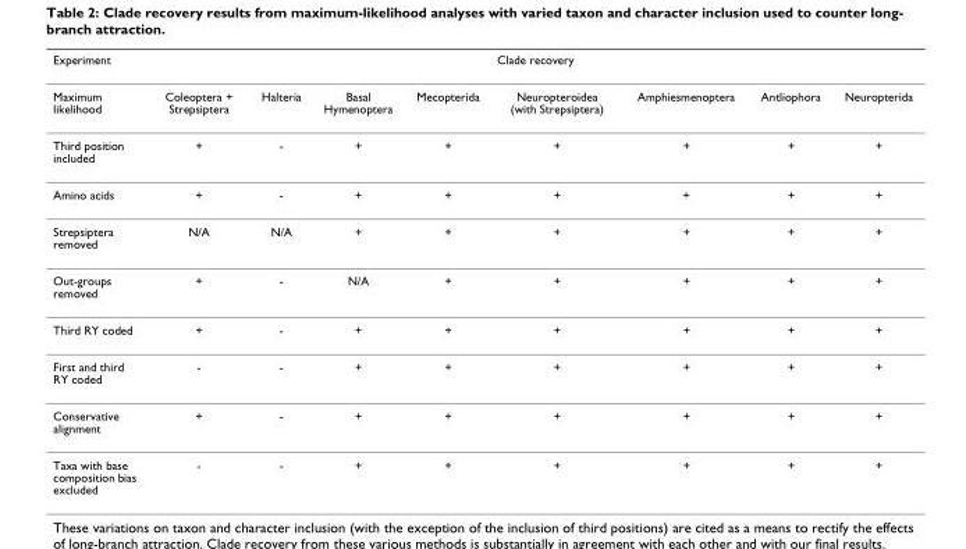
<table><thead><tr><td rowspan="2">Experiment Maximum likelihood</td><td colspan="8">Clade recovery</td></tr><tr><td>Coleoptera + Strepsiptera</td><td>Halteria</td><td>Basal Hymenoptera</td><td>Mecopterida</td><td>Neuropteroidea (with Strepsiptera)</td><td>Amphiesmenoptera</td><td>Antliophora</td><td>Neuropterida</td></tr></thead><tbody><tr><td>Third position included</td><td>+</td><td>-</td><td>+</td><td>+</td><td>+</td><td>+</td><td>+</td><td>+</td></tr><tr><td>Amino acids</td><td>+</td><td>-</td><td>+</td><td>+</td><td>+</td><td>+</td><td>+</td><td>+</td></tr><tr><td>Strepsiptera removed</td><td>N/A</td><td>N/A</td><td>+</td><td>+</td><td>+</td><td>+</td><td>+</td><td>+</td></tr><tr><td>Out-groups removed</td><td>+</td><td>-</td><td>N/A</td><td>+</td><td>+</td><td>+</td><td>+</td><td>+</td></tr><tr><td>Third RY coded</td><td>+</td><td>-</td><td>+</td><td>+</td><td>+</td><td>+</td><td>+</td><td>+</td></tr><tr><td>First and third RY coded</td><td>-</td><td>-</td><td>+</td><td>+</td><td>+</td><td>+</td><td>+</td><td>+</td></tr><tr><td>Conservative alignment</td><td>+</td><td>-</td><td>+</td><td>+</td><td>+</td><td>+</td><td>+</td><td>+</td></tr><tr><td>Taxa with base composition bias excluded</td><td>-</td><td>-</td><td>+</td><td>+</td><td>+</td><td>+</td><td>+</td><td>+</td></tr></tbody></table>